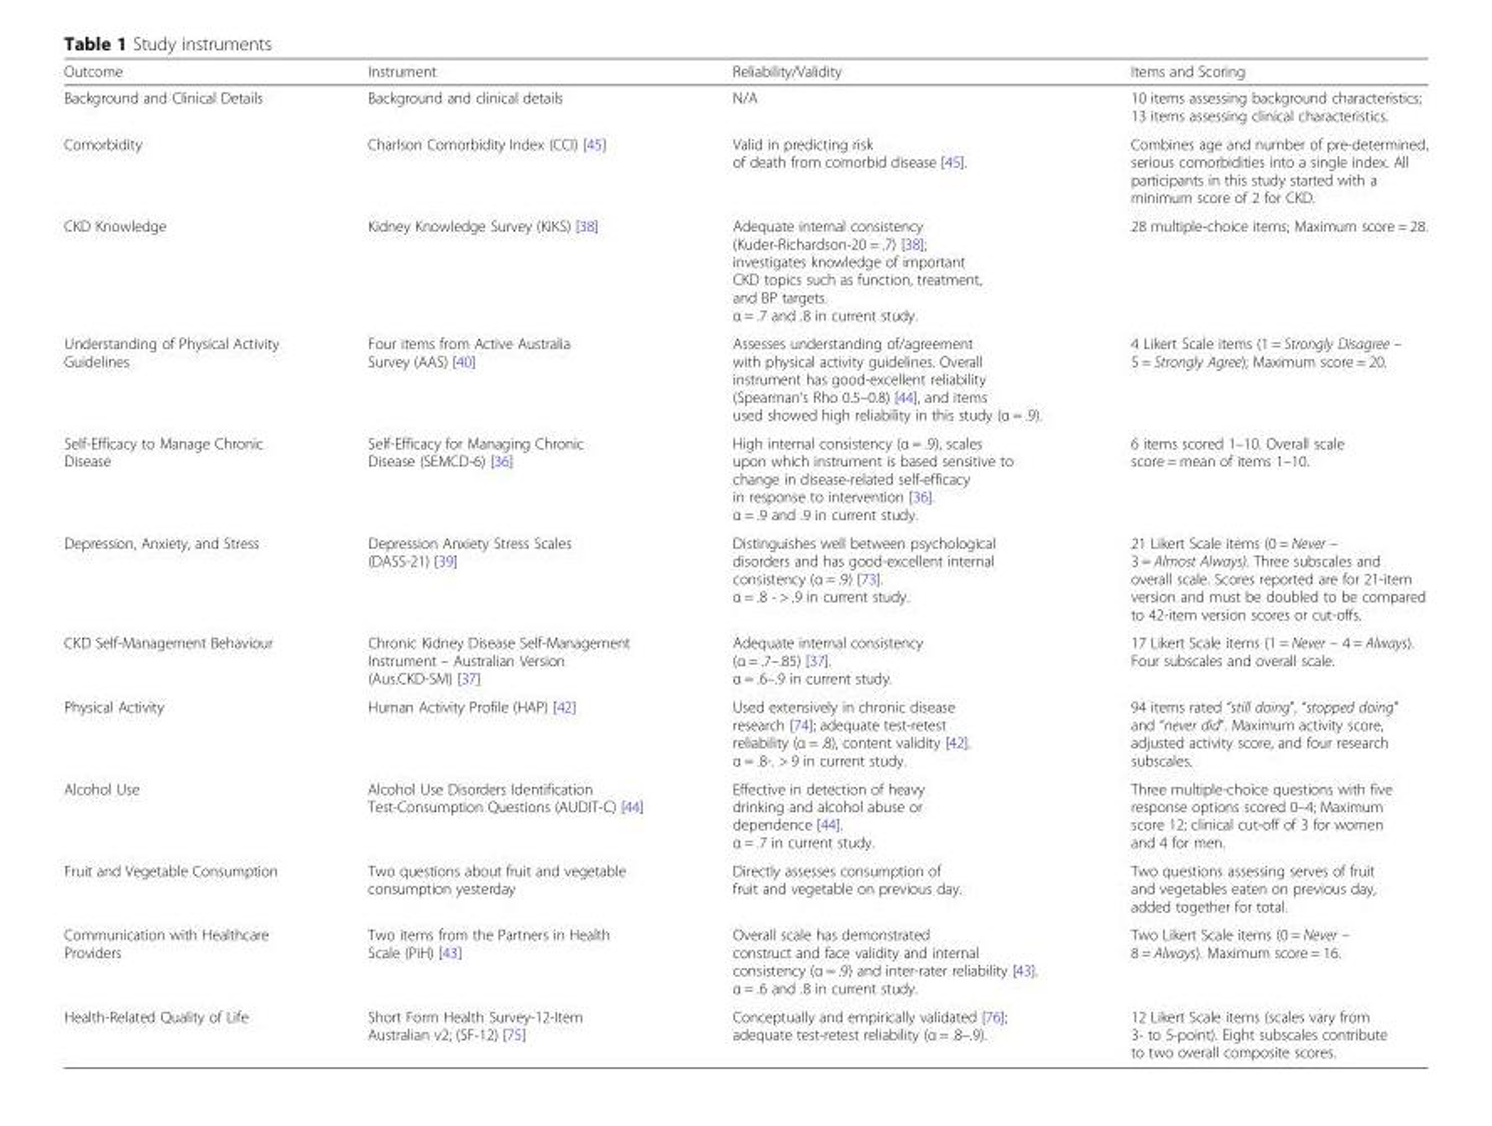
<table><thead><tr><td>Outcome</td><td>Instrument</td><td>Reliability/Validity</td><td>Items and Scoring</td></tr></thead><tbody><tr><td>Background and Clinical Details</td><td>Background and clinical details</td><td>N/A</td><td>10 items assessing background characteristics; 13 items assessing clinical characteristics.</td></tr><tr><td>Comorbidity</td><td>Charlson Comorbidity Index (CCI) [45]</td><td>Valid in predicting risk of death from comorbid disease [45].</td><td>Combines age and number of pre-determined, serious comorbidities into a single index. All participants in this study started with a minimum score of 2 for CKD.</td></tr><tr><td>CKD Knowledge</td><td>Kidney Knowledge Survey (KiKS) [38]</td><td>Adequate internal consistency (Kuder-Richardson-20 = .7) [38]; investigates knowledge of important CKD topics such as function, treatment, and BP targets. α = .7 and .8 in current study.</td><td>28 multiple-choice items; Maximum score = 28.</td></tr><tr><td>Understanding of Physical Activity Guidelines</td><td>Four items from Active Australia Survey (AAS) [40]</td><td>Assesses understanding of/agreement with physical activity guidelines. Overall instrument has good-excellent reliability (Spearman’s Rho 0.5–0.8) [44], and items used showed high reliability in this study (α = .9).</td><td>4 Likert Scale items (1 = Strongly Disagree – 5 = Strongly Agree); Maximum score = 20.</td></tr><tr><td>Self-Efficacy to Manage Chronic Disease</td><td>Self-Efficacy for Managing Chronic Disease (SEMCD-6) [36]</td><td>High internal consistency (α = .9), scales upon which instrument is based sensitive to change in disease-related self-efficacy in response to intervention [36]. α = .9 and .9 in current study.</td><td>6 items scored 1–10. Overall scale score = mean of items 1–10.</td></tr><tr><td>Depression, Anxiety, and Stress</td><td>Depression Anxiety Stress Scales (DASS-21) [39]</td><td>Distinguishes well between psychological disorders and has good-excellent internal consistency (α = .9) [73]. α = .8 - &gt; .9 in current study.</td><td>21 Likert Scale items (0 = Never – 3 = Almost Always). Three subscales and overall scale. Scores reported are for 21-item version and must be doubled to be compared to 42-item version scores or cut-offs.</td></tr><tr><td>CKD Self-Management Behaviour</td><td>Chronic Kidney Disease Self-Management Instrument – Australian Version (Aus.CKD-SM) [37]</td><td>Adequate internal consistency (α = .7–.85) [37]. α = .6–.9 in current study.</td><td>17 Likert Scale items (1 = Never – 4 = Always). Four subscales and overall scale.</td></tr><tr><td>Physical Activity</td><td>Human Activity Profile (HAP) [42]</td><td>Used extensively in chronic disease research [74]; adequate test-retest reliability (α = .8), content validity [42]. α = .8-. &gt; 9 in current study.</td><td>94 items rated “still doing”, “stopped doing” and “never did”. Maximum activity score, adjusted activity score, and four research subscales.</td></tr><tr><td>Alcohol Use</td><td>Alcohol Use Disorders Identification Test-Consumption Questions (AUDIT-C) [44]</td><td>Effective in detection of heavy drinking and alcohol abuse or dependence [44]. α = .7 in current study.</td><td>Three multiple-choice questions with five response options scored 0–4; Maximum score 12; clinical cut-off of 3 for women and 4 for men.</td></tr><tr><td>Fruit and Vegetable Consumption</td><td>Two questions about fruit and vegetable consumption yesterday</td><td>Directly assesses consumption of fruit and vegetable on previous day.</td><td>Two questions assessing serves of fruit and vegetables eaten on previous day, added together for total.</td></tr><tr><td>Communication with Healthcare Providers</td><td>Two items from the Partners in Health Scale (PiH) [43]</td><td>Overall scale has demonstrated construct and face validity and internal consistency (α = .9) and inter-rater reliability [43]. α = .6 and .8 in current study.</td><td>Two Likert Scale items (0 = Never – 8 = Always). Maximum score = 16.</td></tr><tr><td>Health-Related Quality of Life</td><td>Short Form Health Survey-12-Item Australian v2; (SF-12) [75]</td><td>Conceptually and empirically validated [76]; adequate test-retest reliability (α = .8–.9).</td><td>12 Likert Scale items (scales vary from 3- to 5-point). Eight subscales contribute to two overall composite scores.</td></tr></tbody></table>